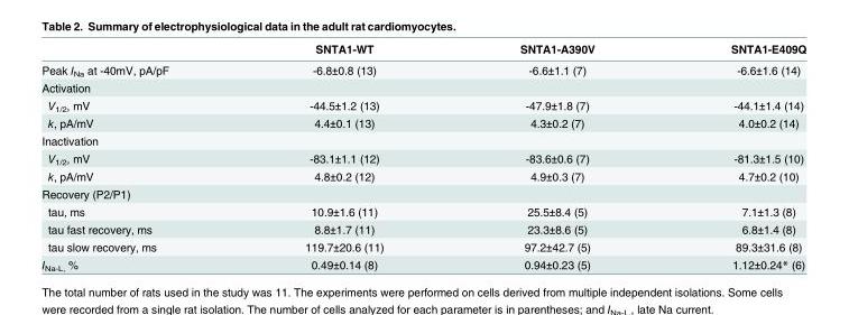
<table><thead><tr><td></td><td>SNTA1-WT</td><td>SNTA1-A390V</td><td>SNTA1-E409Q</td></tr></thead><tbody><tr><td>Peak I<sub>Na</sub> at -40mV, pA/pF</td><td>-6.8±0.8 (13)</td><td>-6.6±1.1 (7)</td><td>-6.6±1.6 (14)</td></tr><tr><td colspan="4">Activation</td></tr><tr><td>V<sub>1/2</sub>, mV</td><td>-44.5±1.2 (13)</td><td>-47.9±1.8 (7)</td><td>-44.1±1.4 (14)</td></tr><tr><td>k, pA/mV</td><td>4.4±0.1 (13)</td><td>4.3±0.2 (7)</td><td>4.0±0.2 (14)</td></tr><tr><td colspan="4">Inactivation</td></tr><tr><td>V<sub>1/2</sub>, mV</td><td>-83.1±1.1 (12)</td><td>-83.6±0.6 (7)</td><td>-81.3±1.5 (10)</td></tr><tr><td>k, pA/mV</td><td>4.8±0.2 (12)</td><td>4.9±0.3 (7)</td><td>4.7±0.2 (10)</td></tr><tr><td colspan="4">Recovery (P2/P1)</td></tr><tr><td>tau, ms</td><td>10.9±1.6 (11)</td><td>25.5±8.4 (5)</td><td>7.1±1.3 (8)</td></tr><tr><td>tau fast recovery, ms</td><td>8.8±1.7 (11)</td><td>23.3±8.6 (5)</td><td>6.8±1.4 (8)</td></tr><tr><td>tau slow recovery, ms</td><td>119.7±20.6 (11)</td><td>97.2±42.7 (5)</td><td>89.3±31.6 (8)</td></tr><tr><td>I<sub>Na-L,</sub> %</td><td>0.49±0.14 (8)</td><td>0.94±0.23 (5)</td><td>1.12±0.24* (6)</td></tr></tbody></table>